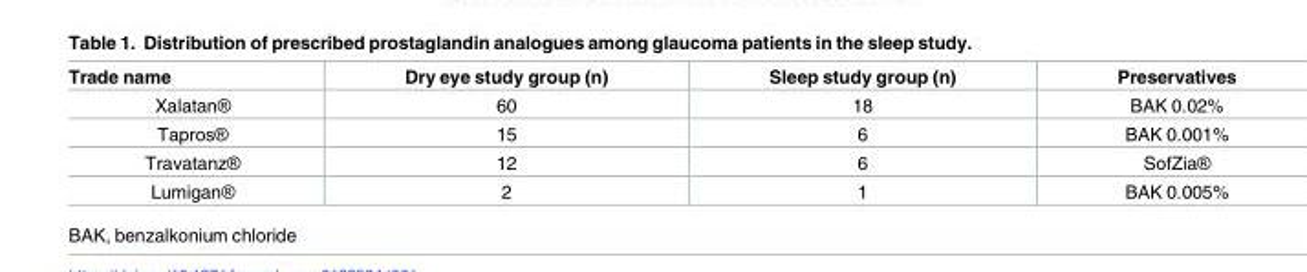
<table><thead><tr><td>Trade name</td><td>Dry eye study group (n)</td><td>Sleep study group (n)</td><td>Preservatives</td></tr></thead><tbody><tr><td>Xalatan®</td><td>60</td><td>18</td><td>BAK 0.02%</td></tr><tr><td>Tapros®</td><td>15</td><td>6</td><td>BAK 0.001%</td></tr><tr><td>Travatanz®</td><td>12</td><td>6</td><td>SofZia®</td></tr><tr><td>Lumigan®</td><td>2</td><td>1</td><td>BAK 0.005%</td></tr></tbody></table>